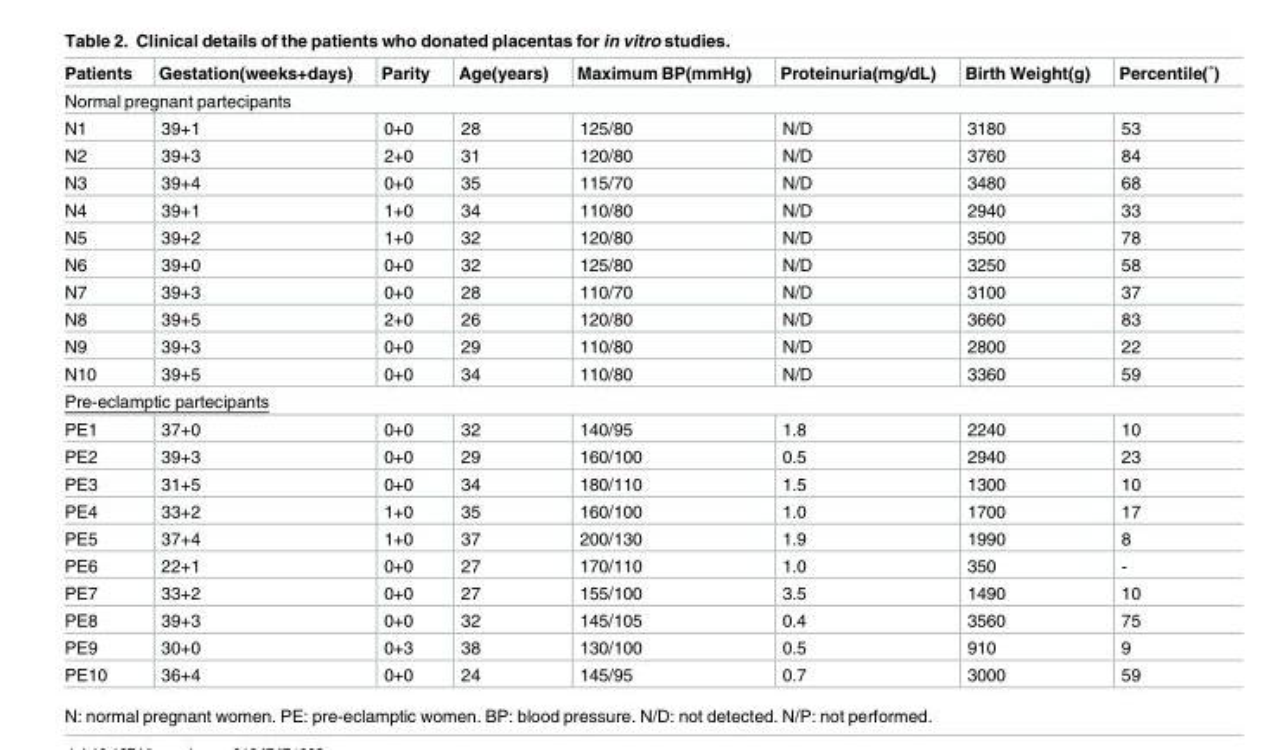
<table><thead><tr><td>Patients</td><td>Gestation(weeks+days)</td><td>Parity</td><td>Age(years)</td><td>Maximum BP(mmHg)</td><td>Proteinuria(mg/dL)</td><td>Birth Weight(g)</td><td>Percentile(˚)</td></tr></thead><tbody><tr><td colspan="8">Normal pregnant partecipants</td></tr><tr><td>N1</td><td>39+1</td><td>0+0</td><td>28</td><td>125/80</td><td>N/D</td><td>3180</td><td>53</td></tr><tr><td>N2</td><td>39+3</td><td>2+0</td><td>31</td><td>120/80</td><td>N/D</td><td>3760</td><td>84</td></tr><tr><td>N3</td><td>39+4</td><td>0+0</td><td>35</td><td>115/70</td><td>N/D</td><td>3480</td><td>68</td></tr><tr><td>N4</td><td>39+1</td><td>1+0</td><td>34</td><td>110/80</td><td>N/D</td><td>2940</td><td>33</td></tr><tr><td>N5</td><td>39+2</td><td>1+0</td><td>32</td><td>120/80</td><td>N/D</td><td>3500</td><td>78</td></tr><tr><td>N6</td><td>39+0</td><td>0+0</td><td>32</td><td>125/80</td><td>N/D</td><td>3250</td><td>58</td></tr><tr><td>N7</td><td>39+3</td><td>0+0</td><td>28</td><td>110/70</td><td>N/D</td><td>3100</td><td>37</td></tr><tr><td>N8</td><td>39+5</td><td>2+0</td><td>26</td><td>120/80</td><td>N/D</td><td>3660</td><td>83</td></tr><tr><td>N9</td><td>39+3</td><td>0+0</td><td>29</td><td>110/80</td><td>N/D</td><td>2800</td><td>22</td></tr><tr><td>N10</td><td>39+5</td><td>0+0</td><td>34</td><td>110/80</td><td>N/D</td><td>3360</td><td>59</td></tr><tr><td colspan="8">Pre-eclamptic partecipants</td></tr><tr><td>PE1</td><td>37+0</td><td>0+0</td><td>32</td><td>140/95</td><td>1.8</td><td>2240</td><td>10</td></tr><tr><td>PE2</td><td>39+3</td><td>0+0</td><td>29</td><td>160/100</td><td>0.5</td><td>2940</td><td>23</td></tr><tr><td>PE3</td><td>31+5</td><td>0+0</td><td>34</td><td>180/110</td><td>1.5</td><td>1300</td><td>10</td></tr><tr><td>PE4</td><td>33+2</td><td>1+0</td><td>35</td><td>160/100</td><td>1.0</td><td>1700</td><td>17</td></tr><tr><td>PE5</td><td>37+4</td><td>1+0</td><td>37</td><td>200/130</td><td>1.9</td><td>1990</td><td>8</td></tr><tr><td>PE6</td><td>22+1</td><td>0+0</td><td>27</td><td>170/110</td><td>1.0</td><td>350</td><td>-</td></tr><tr><td>PE7</td><td>33+2</td><td>0+0</td><td>27</td><td>155/100</td><td>3.5</td><td>1490</td><td>10</td></tr><tr><td>PE8</td><td>39+3</td><td>0+0</td><td>32</td><td>145/105</td><td>0.4</td><td>3560</td><td>75</td></tr><tr><td>PE9</td><td>30+0</td><td>0+3</td><td>38</td><td>130/100</td><td>0.5</td><td>910</td><td>9</td></tr><tr><td>PE10</td><td>36+4</td><td>0+0</td><td>24</td><td>145/95</td><td>0.7</td><td>3000</td><td>59</td></tr></tbody></table>